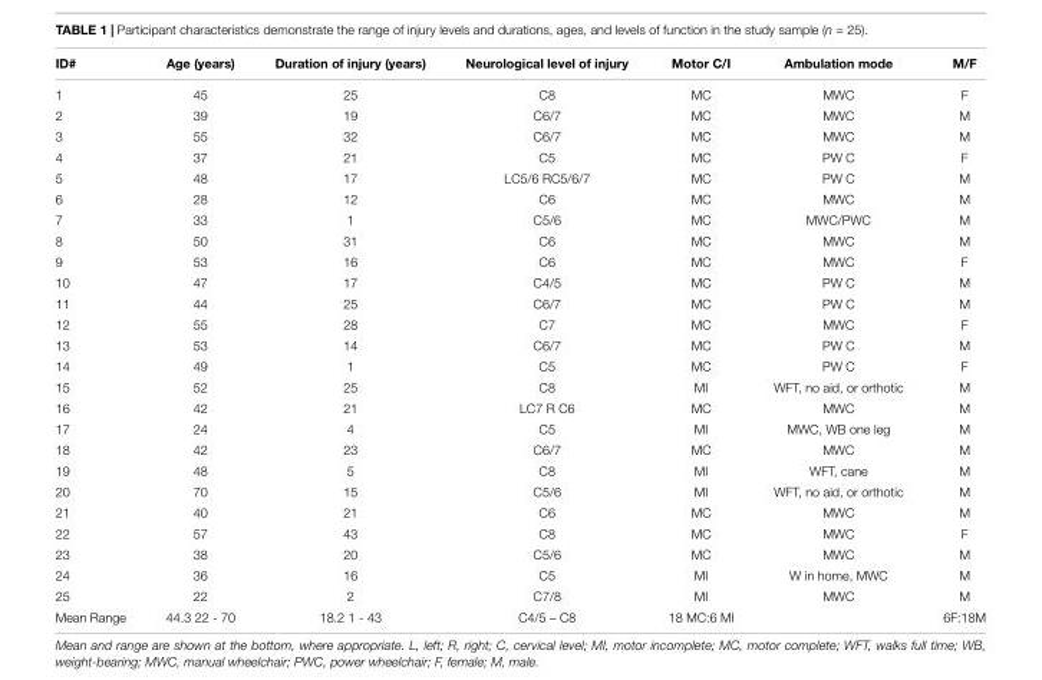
<table><thead><tr><td>ID#</td><td>Age (years)</td><td>Duration of injury (years)</td><td>Neurological level of injury</td><td>Motor C/I</td><td>Ambulation mode</td><td>M/F</td></tr></thead><tbody><tr><td>1</td><td>45</td><td>25</td><td>C8</td><td>MC</td><td>MWC</td><td>F</td></tr><tr><td>2</td><td>39</td><td>19</td><td>C6/7</td><td>MC</td><td>MWC</td><td>M</td></tr><tr><td>3</td><td>55</td><td>32</td><td>C6/7</td><td>MC</td><td>MWC</td><td>M</td></tr><tr><td>4</td><td>37</td><td>21</td><td>C5</td><td>MC</td><td>PW C</td><td>F</td></tr><tr><td>5</td><td>48</td><td>17</td><td>LC5/6 RC5/6/7</td><td>MC</td><td>PW C</td><td>M</td></tr><tr><td>6</td><td>28</td><td>12</td><td>C6</td><td>MC</td><td>MWC</td><td>M</td></tr><tr><td>7</td><td>33</td><td>1</td><td>C5/6</td><td>MC</td><td>MWC/PWC</td><td>M</td></tr><tr><td>8</td><td>50</td><td>31</td><td>C6</td><td>MC</td><td>MWC</td><td>M</td></tr><tr><td>9</td><td>53</td><td>16</td><td>C6</td><td>MC</td><td>MWC</td><td>F</td></tr><tr><td>10</td><td>47</td><td>17</td><td>C4/5</td><td>MC</td><td>PW C</td><td>M</td></tr><tr><td>11</td><td>44</td><td>25</td><td>C6/7</td><td>MC</td><td>PW C</td><td>M</td></tr><tr><td>12</td><td>55</td><td>28</td><td>C7</td><td>MC</td><td>MWC</td><td>F</td></tr><tr><td>13</td><td>53</td><td>14</td><td>C6/7</td><td>MC</td><td>PW C</td><td>M</td></tr><tr><td>14</td><td>49</td><td>1</td><td>C5</td><td>MC</td><td>PW C</td><td>F</td></tr><tr><td>15</td><td>52</td><td>25</td><td>C8</td><td>MI</td><td>WFT, no aid, or orthotic</td><td>M</td></tr><tr><td>16</td><td>42</td><td>21</td><td>LC7 R C6</td><td>MC</td><td>MWC</td><td>M</td></tr><tr><td>17</td><td>24</td><td>4</td><td>C5</td><td>MI</td><td>MWC, WB one leg</td><td>M</td></tr><tr><td>18</td><td>42</td><td>23</td><td>C6/7</td><td>MC</td><td>MWC</td><td>M</td></tr><tr><td>19</td><td>48</td><td>5</td><td>C8</td><td>MI</td><td>WFT, cane</td><td>M</td></tr><tr><td>20</td><td>70</td><td>15</td><td>C5/6</td><td>MI</td><td>WFT, no aid, or orthotic</td><td>M</td></tr><tr><td>21</td><td>40</td><td>21</td><td>C6</td><td>MC</td><td>MWC</td><td>M</td></tr><tr><td>22</td><td>57</td><td>43</td><td>C8</td><td>MC</td><td>MWC</td><td>F</td></tr><tr><td>23</td><td>38</td><td>20</td><td>C5/6</td><td>MC</td><td>MWC</td><td>M</td></tr><tr><td>24</td><td>36</td><td>16</td><td>C5</td><td>MI</td><td>W in home, MWC</td><td>M</td></tr><tr><td>25</td><td>22</td><td>2</td><td>C7/8</td><td>MI</td><td>MWC</td><td>M</td></tr><tr><td>Mean Range</td><td>44.3 22 - 70</td><td>18.2 1 - 43</td><td>C4/5 – C8</td><td>18 MC:6 MI</td><td></td><td>6F:18M</td></tr></tbody></table>